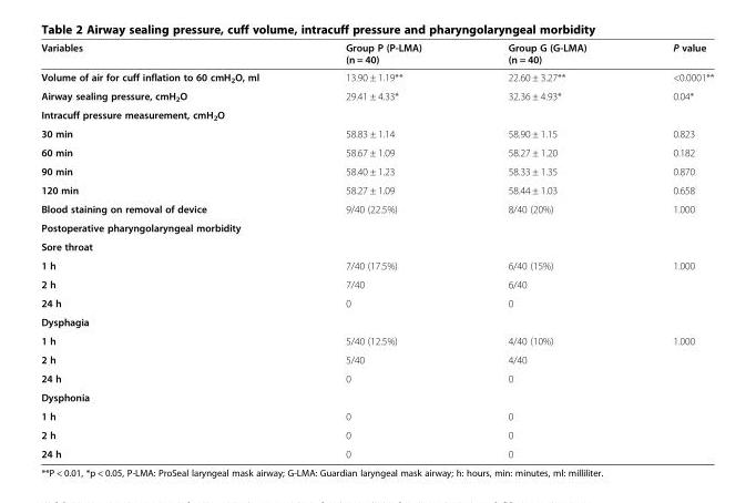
<table><thead><tr><td>Variables</td><td>Group P (P-LMA) (n = 40)</td><td>Group G (G-LMA) (n = 40)</td><td>P value</td></tr></thead><tbody><tr><td>Volume of air for cuff inflation to 60 cmH<sub>2</sub>O, ml</td><td>13.90 ± 1.19**</td><td>22.60 ± 3.27**</td><td>&lt;0.0001**</td></tr><tr><td>Airway sealing pressure, cmH<sub>2</sub>O</td><td>29.41 ± 4.33*</td><td>32.36 ± 4.93*</td><td>0.04*</td></tr><tr><td colspan="4">Intracuff pressure measurement, cmH<sub>2</sub>O</td></tr><tr><td>30 min</td><td>58.83 ± 1.14</td><td>58.90 ± 1.15</td><td>0.823</td></tr><tr><td>60 min</td><td>58.67 ± 1.09</td><td>58.27 ± 1.20</td><td>0.182</td></tr><tr><td>90 min</td><td>58.40 ± 1.23</td><td>58.33 ± 1.35</td><td>0.870</td></tr><tr><td>120 min</td><td>58.27 ± 1.09</td><td>58.44 ± 1.03</td><td>0.658</td></tr><tr><td>Blood staining on removal of device</td><td>9/40 (22.5%)</td><td>8/40 (20%)</td><td>1.000</td></tr><tr><td colspan="4">Postoperative pharyngolaryngeal morbidity</td></tr><tr><td colspan="4">Sore throat</td></tr><tr><td>1 h</td><td>7/40 (17.5%)</td><td>6/40 (15%)</td><td>1.000</td></tr><tr><td>2 h</td><td>7/40</td><td>6/40</td><td></td></tr><tr><td>24 h</td><td>0</td><td>0</td><td></td></tr><tr><td colspan="4">Dysphagia</td></tr><tr><td>1 h</td><td>5/40 (12.5%)</td><td>4/40 (10%)</td><td>1.000</td></tr><tr><td>2 h</td><td>5/40</td><td>4/40</td><td></td></tr><tr><td>24 h</td><td>0</td><td>0</td><td></td></tr><tr><td colspan="4">Dysphonia</td></tr><tr><td>1 h</td><td>0</td><td>0</td><td></td></tr><tr><td>2 h</td><td>0</td><td>0</td><td></td></tr><tr><td>24 h</td><td>0</td><td>0</td><td></td></tr></tbody></table>